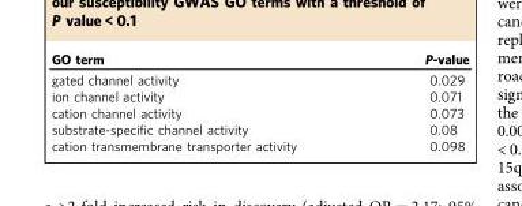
<table><thead><tr><td>GO term</td><td>P-value</td></tr></thead><tbody><tr><td>gated channel activity</td><td>0.029</td></tr><tr><td>ion channel activity</td><td>0.071</td></tr><tr><td>cation channel activity</td><td>0.073</td></tr><tr><td>substrate-specific channel activity</td><td>0.08</td></tr><tr><td>cation transmembrane transporter activity</td><td>0.098</td></tr></tbody></table>